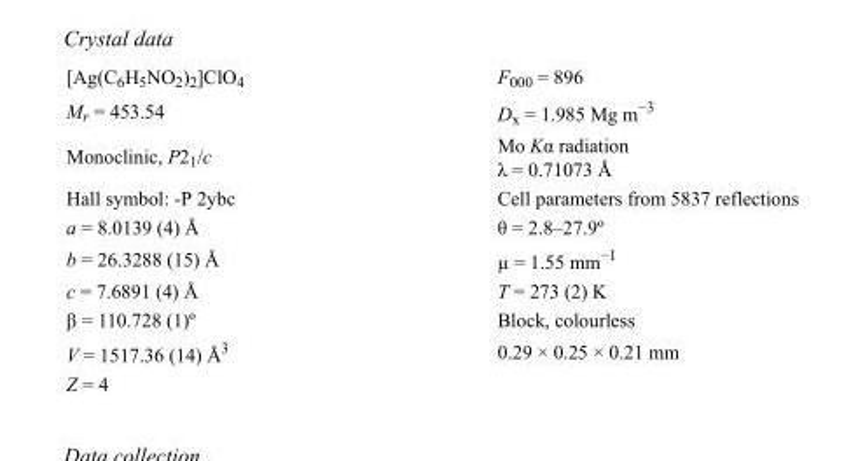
<table><tbody><tr><td>[Ag(C<sub>6</sub>H<sub>5</sub>NO<sub>2</sub>)<sub>2</sub>]ClO<sub>4</sub></td><td>F000 = 896</td></tr><tr><td>M<sub>r</sub> = 453.54</td><td>D<sub>x</sub> = 1.985 Mg m<sup>−3</sup></td></tr><tr><td>Monoclinic, P2<sub>1</sub>/c</td><td>Mo Kα radiation λ = 0.71073 Å</td></tr><tr><td>Hall symbol: -P 2ybc</td><td>Cell parameters from 5837 reflections</td></tr><tr><td>a = 8.0139 (4) Å</td><td>θ = 2.8–27.9º</td></tr><tr><td>b = 26.3288 (15) Å</td><td>µ = 1.55 mm<sup>−1</sup></td></tr><tr><td>c = 7.6891 (4) Å</td><td>T = 273 (2) K</td></tr><tr><td>β = 110.728 (1)º</td><td>Block, colourless</td></tr><tr><td>V = 1517.36 (14) Å<sup>3</sup></td><td>0.29 × 0.25 × 0.21 mm</td></tr><tr><td>Z = 4</td><td></td></tr></tbody></table>